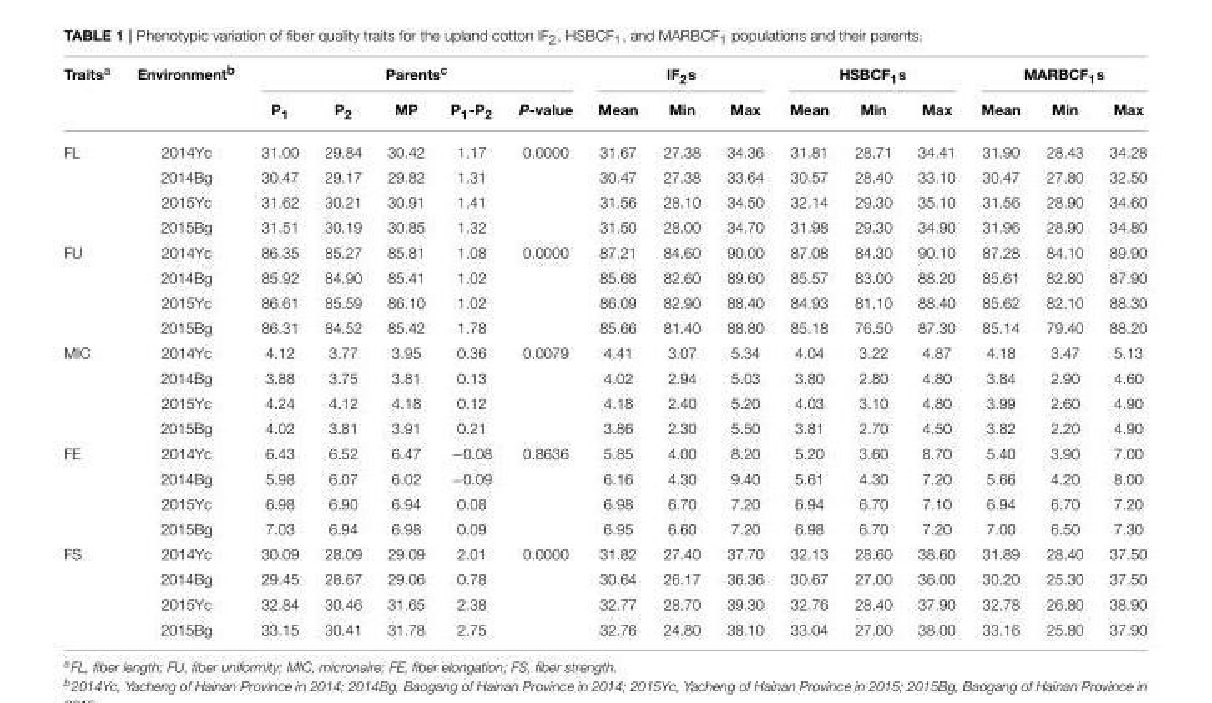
<table><thead><tr><td rowspan="2">Traits<sup>a</sup></td><td rowspan="2">Environment<sup>b</sup></td><td colspan="5">Parents<sup>c</sup></td><td colspan="3">IF<sub>2</sub>s</td><td colspan="3">HSBCF<sub>1</sub>s</td><td colspan="3">MARBCF<sub>1</sub>s</td></tr><tr><td>P<sub>1</sub></td><td>P<sub>2</sub></td><td>MP</td><td>P<sub>1</sub>-P<sub>2</sub></td><td>P-value</td><td>Mean</td><td>Min</td><td>Max</td><td>Mean</td><td>Min</td><td>Max</td><td>Mean</td><td>Min</td><td>Max</td></tr></thead><tbody><tr><td rowspan="4">FL</td><td>2014Yc</td><td>31.00</td><td>29.84</td><td>30.42</td><td>1.17</td><td>0.0000</td><td>31.67</td><td>27.38</td><td>34.36</td><td>31.81</td><td>28.71</td><td>34.41</td><td>31.90</td><td>28.43</td><td>34.28</td></tr><tr><td>2014Bg</td><td>30.47</td><td>29.17</td><td>29.82</td><td>1.31</td><td></td><td>30.47</td><td>27.38</td><td>33.64</td><td>30.57</td><td>28.40</td><td>33.10</td><td>30.47</td><td>27.80</td><td>32.50</td></tr><tr><td>2015Yc</td><td>31.62</td><td>30.21</td><td>30.91</td><td>1.41</td><td></td><td>31.56</td><td>28.10</td><td>34.50</td><td>32.14</td><td>29.30</td><td>35.10</td><td>31.56</td><td>28.90</td><td>34.60</td></tr><tr><td>2015Bg</td><td>31.51</td><td>30.19</td><td>30.85</td><td>1.32</td><td></td><td>31.50</td><td>28.00</td><td>34.70</td><td>31.98</td><td>29.30</td><td>34.90</td><td>31.96</td><td>28.90</td><td>34.80</td></tr><tr><td rowspan="4">FU</td><td>2014Yc</td><td>86.35</td><td>85.27</td><td>85.81</td><td>1.08</td><td>0.0000</td><td>87.21</td><td>84.60</td><td>90.00</td><td>87.08</td><td>84.30</td><td>90.10</td><td>87.28</td><td>84.10</td><td>89.90</td></tr><tr><td>2014Bg</td><td>85.92</td><td>84.90</td><td>85.41</td><td>1.02</td><td></td><td>85.68</td><td>82.60</td><td>89.60</td><td>85.57</td><td>83.00</td><td>88.20</td><td>85.61</td><td>82.80</td><td>87.90</td></tr><tr><td>2015Yc</td><td>86.61</td><td>85.59</td><td>86.10</td><td>1.02</td><td></td><td>86.09</td><td>82.90</td><td>88.40</td><td>84.93</td><td>81.10</td><td>88.40</td><td>85.62</td><td>82.10</td><td>88.30</td></tr><tr><td>2015Bg</td><td>86.31</td><td>84.52</td><td>85.42</td><td>1.78</td><td></td><td>85.66</td><td>81.40</td><td>88.80</td><td>85.18</td><td>76.50</td><td>87.30</td><td>85.14</td><td>79.40</td><td>88.20</td></tr><tr><td rowspan="4">MIC</td><td>2014Yc</td><td>4.12</td><td>3.77</td><td>3.95</td><td>0.36</td><td>0.0079</td><td>4.41</td><td>3.07</td><td>5.34</td><td>4.04</td><td>3.22</td><td>4.87</td><td>4.18</td><td>3.47</td><td>5.13</td></tr><tr><td>2014Bg</td><td>3.88</td><td>3.75</td><td>3.81</td><td>0.13</td><td></td><td>4.02</td><td>2.94</td><td>5.03</td><td>3.80</td><td>2.80</td><td>4.80</td><td>3.84</td><td>2.90</td><td>4.60</td></tr><tr><td>2015Yc</td><td>4.24</td><td>4.12</td><td>4.18</td><td>0.12</td><td></td><td>4.18</td><td>2.40</td><td>5.20</td><td>4.03</td><td>3.10</td><td>4.80</td><td>3.99</td><td>2.60</td><td>4.90</td></tr><tr><td>2015Bg</td><td>4.02</td><td>3.81</td><td>3.91</td><td>0.21</td><td></td><td>3.86</td><td>2.30</td><td>5.50</td><td>3.81</td><td>2.70</td><td>4.50</td><td>3.82</td><td>2.20</td><td>4.90</td></tr><tr><td rowspan="4">FE</td><td>2014Yc</td><td>6.43</td><td>6.52</td><td>6.47</td><td>−0.08</td><td>0.8636</td><td>5.85</td><td>4.00</td><td>8.20</td><td>5.20</td><td>3.60</td><td>8.70</td><td>5.40</td><td>3.90</td><td>7.00</td></tr><tr><td>2014Bg</td><td>5.98</td><td>6.07</td><td>6.02</td><td>−0.09</td><td></td><td>6.16</td><td>4.30</td><td>9.40</td><td>5.61</td><td>4.30</td><td>7.20</td><td>5.66</td><td>4.20</td><td>8.00</td></tr><tr><td>2015Yc</td><td>6.98</td><td>6.90</td><td>6.94</td><td>0.08</td><td></td><td>6.98</td><td>6.70</td><td>7.20</td><td>6.94</td><td>6.70</td><td>7.10</td><td>6.94</td><td>6.70</td><td>7.20</td></tr><tr><td>2015Bg</td><td>7.03</td><td>6.94</td><td>6.98</td><td>0.09</td><td></td><td>6.95</td><td>6.60</td><td>7.20</td><td>6.98</td><td>6.70</td><td>7.20</td><td>7.00</td><td>6.50</td><td>7.30</td></tr><tr><td rowspan="4">FS</td><td>2014Yc</td><td>30.09</td><td>28.09</td><td>29.09</td><td>2.01</td><td>0.0000</td><td>31.82</td><td>27.40</td><td>37.70</td><td>32.13</td><td>28.60</td><td>38.60</td><td>31.89</td><td>28.40</td><td>37.50</td></tr><tr><td>2014Bg</td><td>29.45</td><td>28.67</td><td>29.06</td><td>0.78</td><td></td><td>30.64</td><td>26.17</td><td>36.36</td><td>30.67</td><td>27.00</td><td>36.00</td><td>30.20</td><td>25.30</td><td>37.50</td></tr><tr><td>2015Yc</td><td>32.84</td><td>30.46</td><td>31.65</td><td>2.38</td><td></td><td>32.77</td><td>28.70</td><td>39.30</td><td>32.76</td><td>28.40</td><td>37.90</td><td>32.78</td><td>26.80</td><td>38.90</td></tr><tr><td>2015Bg</td><td>33.15</td><td>30.41</td><td>31.78</td><td>2.75</td><td></td><td>32.76</td><td>24.80</td><td>38.10</td><td>33.04</td><td>27.00</td><td>38.00</td><td>33.16</td><td>25.80</td><td>37.90</td></tr></tbody></table>